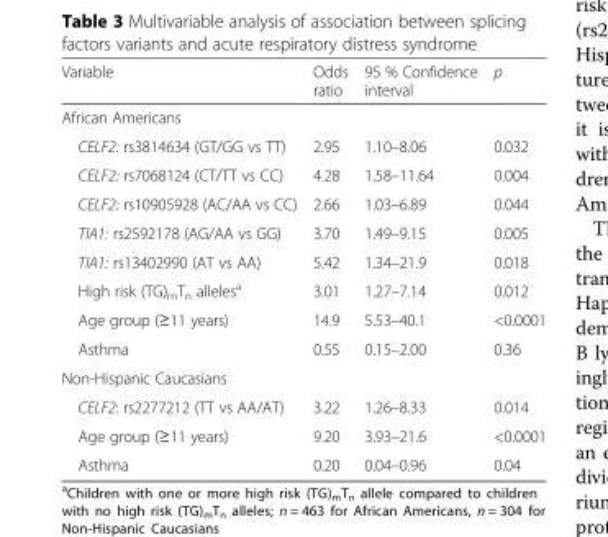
<table><thead><tr><td>Variable</td><td>Odds ratio</td><td>95 % Confidence interval</td><td>p</td></tr></thead><tbody><tr><td colspan="4">African Americans</td></tr><tr><td>CELF2: rs3814634 (GT/GG vs TT)</td><td>2.95</td><td>1.10–8.06</td><td>0.032</td></tr><tr><td>CELF2: rs7068124 (CT/TT vs CC)</td><td>4.28</td><td>1.58–11.64</td><td>0.004</td></tr><tr><td>CELF2: rs10905928 (AC/AA vs CC)</td><td>2.66</td><td>1.03–6.89</td><td>0.044</td></tr><tr><td>TIA1: rs2592178 (AG/AA vs GG)</td><td>3.70</td><td>1.49–9.15</td><td>0.005</td></tr><tr><td>TIA1: rs13402990 (AT vs AA)</td><td>5.42</td><td>1.34–21.9</td><td>0.018</td></tr><tr><td>High risk (TG)<sub>m</sub>T<sub>n</sub> alleles<sup>a</sup></td><td>3.01</td><td>1.27–7.14</td><td>0.012</td></tr><tr><td>Age group (≥11 years)</td><td>14.9</td><td>5.53–40.1</td><td>&lt;0.0001</td></tr><tr><td>Asthma</td><td>0.55</td><td>0.15–2.00</td><td>0.36</td></tr><tr><td colspan="4">Non-Hispanic Caucasians</td></tr><tr><td>CELF2: rs2277212 (TT vs AA/AT)</td><td>3.22</td><td>1.26–8.33</td><td>0.014</td></tr><tr><td>Age group (≥11 years)</td><td>9.20</td><td>3.93–21.6</td><td>&lt;0.0001</td></tr><tr><td>Asthma</td><td>0.20</td><td>0.04–0.96</td><td>0.04</td></tr></tbody></table>